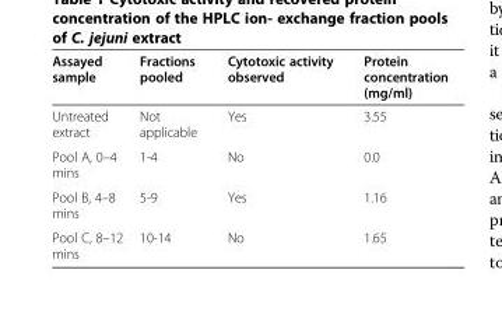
<table><thead><tr><td>Assayed sample</td><td>Fractions pooled</td><td>Cytotoxic activity observed</td><td>Protein concentration (mg/ml)</td></tr></thead><tbody><tr><td>Untreated extract</td><td>Not applicable</td><td>Yes</td><td>3.55</td></tr><tr><td>Pool A, 0–4 mins</td><td>1-4</td><td>No</td><td>0.0</td></tr><tr><td>Pool B, 4–8 mins</td><td>5-9</td><td>Yes</td><td>1.16</td></tr><tr><td>Pool C, 8–12 mins</td><td>10-14</td><td>No</td><td>1.65</td></tr></tbody></table>